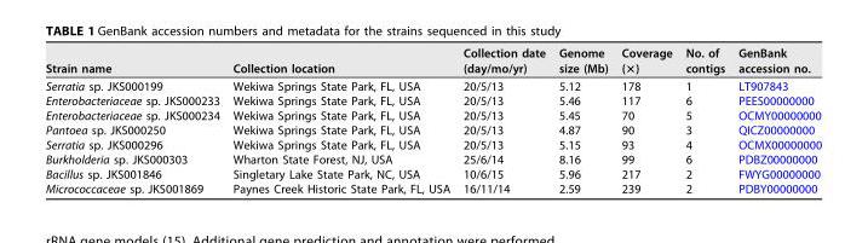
<table><thead><tr><td>Strain name</td><td>Collection location</td><td>Collection date (day/mo/yr)</td><td>Genome size (Mb)</td><td>Coverage (×)</td><td>No. of contigs</td><td>GenBank accession no.</td></tr></thead><tbody><tr><td>Serratia sp. JKS000199</td><td>Wekiwa Springs State Park, FL, USA</td><td>20/5/13</td><td>5.12</td><td>178</td><td>1</td><td>LT907843</td></tr><tr><td>Enterobacteriaceae sp. JKS000233</td><td>Wekiwa Springs State Park, FL, USA</td><td>20/5/13</td><td>5.46</td><td>117</td><td>6</td><td>PEES00000000</td></tr><tr><td>Enterobacteriaceae sp. JKS000234</td><td>Wekiwa Springs State Park, FL, USA</td><td>20/5/13</td><td>5.45</td><td>70</td><td>5</td><td>OCMY00000000</td></tr><tr><td>Pantoea sp. JKS000250</td><td>Wekiwa Springs State Park, FL, USA</td><td>20/5/13</td><td>4.87</td><td>90</td><td>3</td><td>QICZ00000000</td></tr><tr><td>Serratia sp. JKS000296</td><td>Wekiwa Springs State Park, FL, USA</td><td>20/5/13</td><td>5.15</td><td>93</td><td>4</td><td>OCMX00000000</td></tr><tr><td>Burkholderia sp. JKS000303</td><td>Wharton State Forest, NJ, USA</td><td>25/6/14</td><td>8.16</td><td>99</td><td>6</td><td>PDBZ00000000</td></tr><tr><td>Bacillus sp. JKS001846</td><td>Singletary Lake State Park, NC, USA</td><td>10/6/15</td><td>5.96</td><td>217</td><td>2</td><td>FWYG00000000</td></tr><tr><td>Micrococcaceae sp. JKS001869</td><td>Paynes Creek Historic State Park, FL, USA</td><td>16/11/14</td><td>2.59</td><td>239</td><td>2</td><td>PDBY00000000</td></tr></tbody></table>